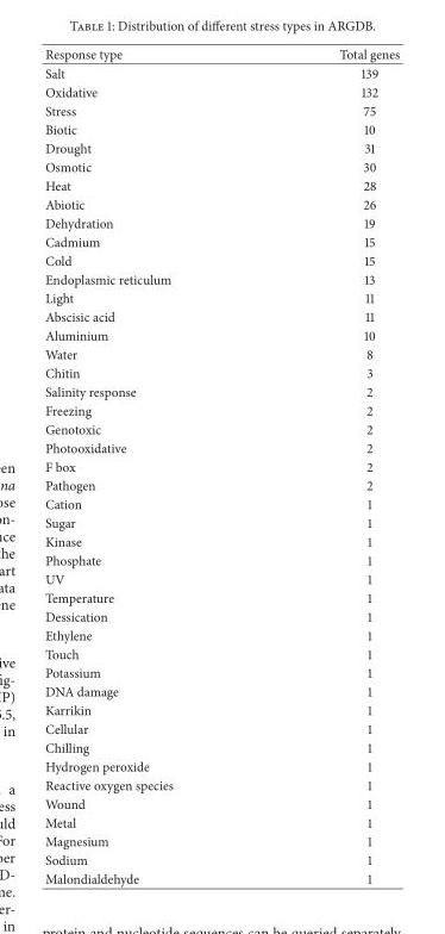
<table><thead><tr><td>Response type</td><td>Total genes</td></tr></thead><tbody><tr><td>Salt</td><td>139</td></tr><tr><td>Oxidative</td><td>132</td></tr><tr><td>Stress</td><td>75</td></tr><tr><td>Biotic</td><td>10</td></tr><tr><td>Drought</td><td>31</td></tr><tr><td>Osmotic</td><td>30</td></tr><tr><td>Heat</td><td>28</td></tr><tr><td>Abiotic</td><td>26</td></tr><tr><td>Dehydration</td><td>19</td></tr><tr><td>Cadmium</td><td>15</td></tr><tr><td>Cold</td><td>15</td></tr><tr><td>Endoplasmic reticulum</td><td>13</td></tr><tr><td>Light</td><td>11</td></tr><tr><td>Abscisic acid</td><td>11</td></tr><tr><td>Aluminium</td><td>10</td></tr><tr><td>Water</td><td>8</td></tr><tr><td>Chitin</td><td>3</td></tr><tr><td>Salinity response</td><td>2</td></tr><tr><td>Freezing</td><td>2</td></tr><tr><td>Genotoxic</td><td>2</td></tr><tr><td>Photooxidative</td><td>2</td></tr><tr><td>F box</td><td>2</td></tr><tr><td>Pathogen</td><td>2</td></tr><tr><td>Cation</td><td>1</td></tr><tr><td>Sugar</td><td>1</td></tr><tr><td>Kinase</td><td>1</td></tr><tr><td>Phosphate</td><td>1</td></tr><tr><td>UV</td><td>1</td></tr><tr><td>Temperature</td><td>1</td></tr><tr><td>Dessication</td><td>1</td></tr><tr><td>Ethylene</td><td>1</td></tr><tr><td>Touch</td><td>1</td></tr><tr><td>Potassium</td><td>1</td></tr><tr><td>DNA damage</td><td>1</td></tr><tr><td>Karrikin</td><td>1</td></tr><tr><td>Cellular</td><td>1</td></tr><tr><td>Chilling</td><td>1</td></tr><tr><td>Hydrogen peroxide</td><td>1</td></tr><tr><td>Reactive oxygen species</td><td>1</td></tr><tr><td>Wound</td><td>1</td></tr><tr><td>Metal</td><td>1</td></tr><tr><td>Magnesium</td><td>1</td></tr><tr><td>Sodium</td><td>1</td></tr><tr><td>Malondialdehyde</td><td>1</td></tr></tbody></table>